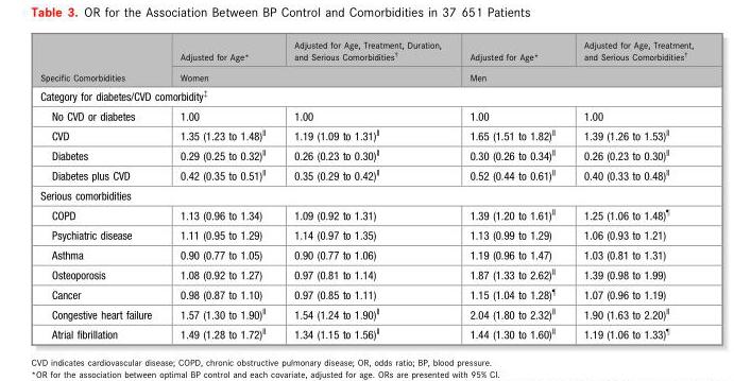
<table><thead><tr><td rowspan="2">Specific Comorbidities</td><td>Adjusted for Age*</td><td>Adjusted for Age, Treatment, Duration, and Serious Comorbidities†</td><td>Adjusted for Age*</td><td>Adjusted for Age, Treatment, and Serious Comorbidities†</td></tr><tr><td colspan="2">Women</td><td colspan="2">Men</td></tr></thead><tbody><tr><td colspan="5">Category for diabetes/CVD comorbidity‡</td></tr><tr><td>No CVD or diabetes</td><td>1.00</td><td>1.00</td><td>1.00</td><td>1.00</td></tr><tr><td>CVD</td><td>1.35 (1.23 to 1.48)‖</td><td>1.19 (1.09 to 1.31)‖</td><td>1.65 (1.51 to 1.82)‖</td><td>1.39 (1.26 to 1.53)‖</td></tr><tr><td>Diabetes</td><td>0.29 (0.25 to 0.32)‖</td><td>0.26 (0.23 to 0.30)‖</td><td>0.30 (0.26 to 0.34)‖</td><td>0.26 (0.23 to 0.30)‖</td></tr><tr><td>Diabetes plus CVD</td><td>0.42 (0.35 to 0.51)‖</td><td>0.35 (0.29 to 0.42)‖</td><td>0.52 (0.44 to 0.61)‖</td><td>0.40 (0.33 to 0.48)‖</td></tr><tr><td colspan="5">Serious comorbidities</td></tr><tr><td>COPD</td><td>1.13 (0.96 to 1.34)</td><td>1.09 (0.92 to 1.31)</td><td>1.39 (1.20 to 1.61)‖</td><td>1.25 (1.06 to 1.48)¶</td></tr><tr><td>Psychiatric disease</td><td>1.11 (0.95 to 1.29)</td><td>1.14 (0.97 to 1.35)</td><td>1.13 (0.99 to 1.29)</td><td>1.06 (0.93 to 1.21)</td></tr><tr><td>Asthma</td><td>0.90 (0.77 to 1.05)</td><td>0.90 (0.77 to 1.06)</td><td>1.19 (0.96 to 1.47)</td><td>1.03 (0.81 to 1.31)</td></tr><tr><td>Osteoporosis</td><td>1.08 (0.92 to 1.27)</td><td>0.97 (0.81 to 1.14)</td><td>1.87 (1.33 to 2.62)‖</td><td>1.39 (0.98 to 1.99)</td></tr><tr><td>Cancer</td><td>0.98 (0.87 to 1.10)</td><td>0.97 (0.85 to 1.11)</td><td>1.15 (1.04 to 1.28)¶</td><td>1.07 (0.96 to 1.19)</td></tr><tr><td>Congestive heart failure</td><td>1.57 (1.30 to 1.90)‖</td><td>1.54 (1.24 to 1.90)‖</td><td>2.04 (1.80 to 2.32)‖</td><td>1.90 (1.63 to 2.20)‖</td></tr><tr><td>Atrial fibrillation</td><td>1.49 (1.28 to 1.72)‖</td><td>1.34 (1.15 to 1.56)‖</td><td>1.44 (1.30 to 1.60)‖</td><td>1.19 (1.06 to 1.33)¶</td></tr></tbody></table>